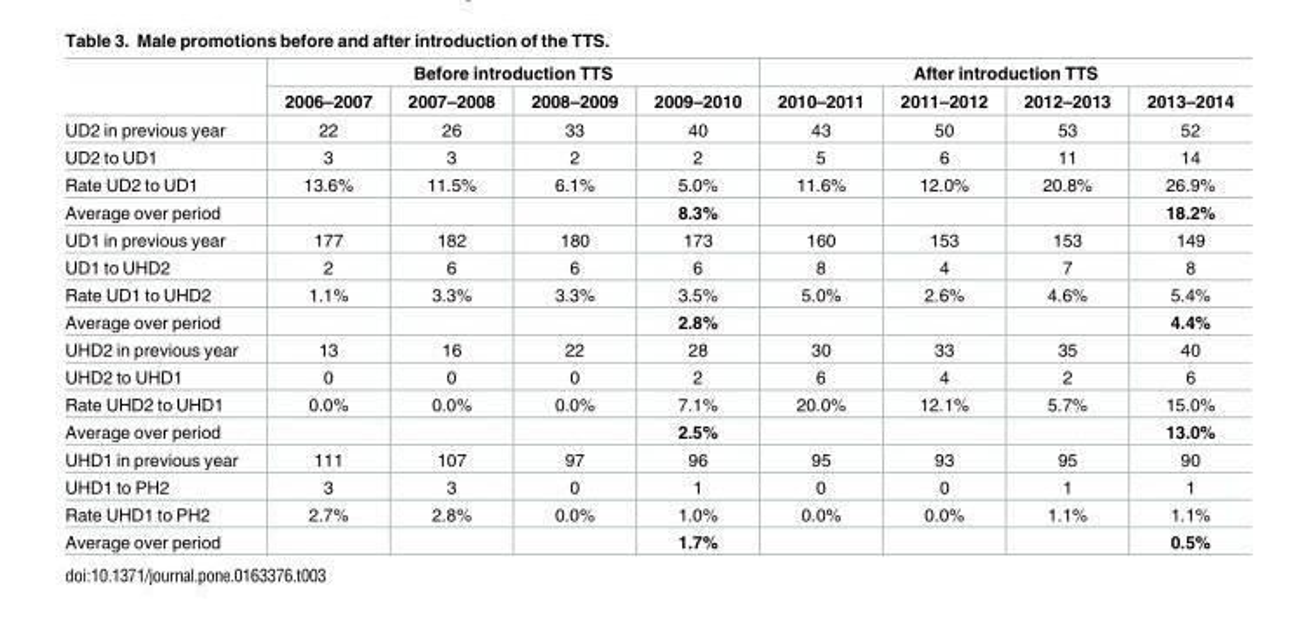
<table><thead><tr><td rowspan="2"></td><td colspan="4">Before introduction TTS</td><td colspan="4">After introduction TTS</td></tr><tr><td>2006–2007</td><td>2007–2008</td><td>2008–2009</td><td>2009–2010</td><td>2010–2011</td><td>2011–2012</td><td>2012–2013</td><td>2013–2014</td></tr></thead><tbody><tr><td>UD2 in previous year</td><td>22</td><td>26</td><td>33</td><td>40</td><td>43</td><td>50</td><td>53</td><td>52</td></tr><tr><td>UD2 to UD1</td><td>3</td><td>3</td><td>2</td><td>2</td><td>5</td><td>6</td><td>11</td><td>14</td></tr><tr><td>Rate UD2 to UD1</td><td>13.6%</td><td>11.5%</td><td>6.1%</td><td>5.0%</td><td>11.6%</td><td>12.0%</td><td>20.8%</td><td>26.9%</td></tr><tr><td>Average over period</td><td></td><td></td><td></td><td>8.3%</td><td></td><td></td><td></td><td>18.2%</td></tr><tr><td>UD1 in previous year</td><td>177</td><td>182</td><td>180</td><td>173</td><td>160</td><td>153</td><td>153</td><td>149</td></tr><tr><td>UD1 to UHD2</td><td>2</td><td>6</td><td>6</td><td>6</td><td>8</td><td>4</td><td>7</td><td>8</td></tr><tr><td>Rate UD1 to UHD2</td><td>1.1%</td><td>3.3%</td><td>3.3%</td><td>3.5%</td><td>5.0%</td><td>2.6%</td><td>4.6%</td><td>5.4%</td></tr><tr><td>Average over period</td><td></td><td></td><td></td><td>2.8%</td><td></td><td></td><td></td><td>4.4%</td></tr><tr><td>UHD2 in previous year</td><td>13</td><td>16</td><td>22</td><td>28</td><td>30</td><td>33</td><td>35</td><td>40</td></tr><tr><td>UHD2 to UHD1</td><td>0</td><td>0</td><td>0</td><td>2</td><td>6</td><td>4</td><td>2</td><td>6</td></tr><tr><td>Rate UHD2 to UHD1</td><td>0.0%</td><td>0.0%</td><td>0.0%</td><td>7.1%</td><td>20.0%</td><td>12.1%</td><td>5.7%</td><td>15.0%</td></tr><tr><td>Average over period</td><td></td><td></td><td></td><td>2.5%</td><td></td><td></td><td></td><td>13.0%</td></tr><tr><td>UHD1 in previous year</td><td>111</td><td>107</td><td>97</td><td>96</td><td>95</td><td>93</td><td>95</td><td>90</td></tr><tr><td>UHD1 to PH2</td><td>3</td><td>3</td><td>0</td><td>1</td><td>0</td><td>0</td><td>1</td><td>1</td></tr><tr><td>Rate UHD1 to PH2</td><td>2.7%</td><td>2.8%</td><td>0.0%</td><td>1.0%</td><td>0.0%</td><td>0.0%</td><td>1.1%</td><td>1.1%</td></tr><tr><td>Average over period</td><td></td><td></td><td></td><td>1.7%</td><td></td><td></td><td></td><td>0.5%</td></tr></tbody></table>